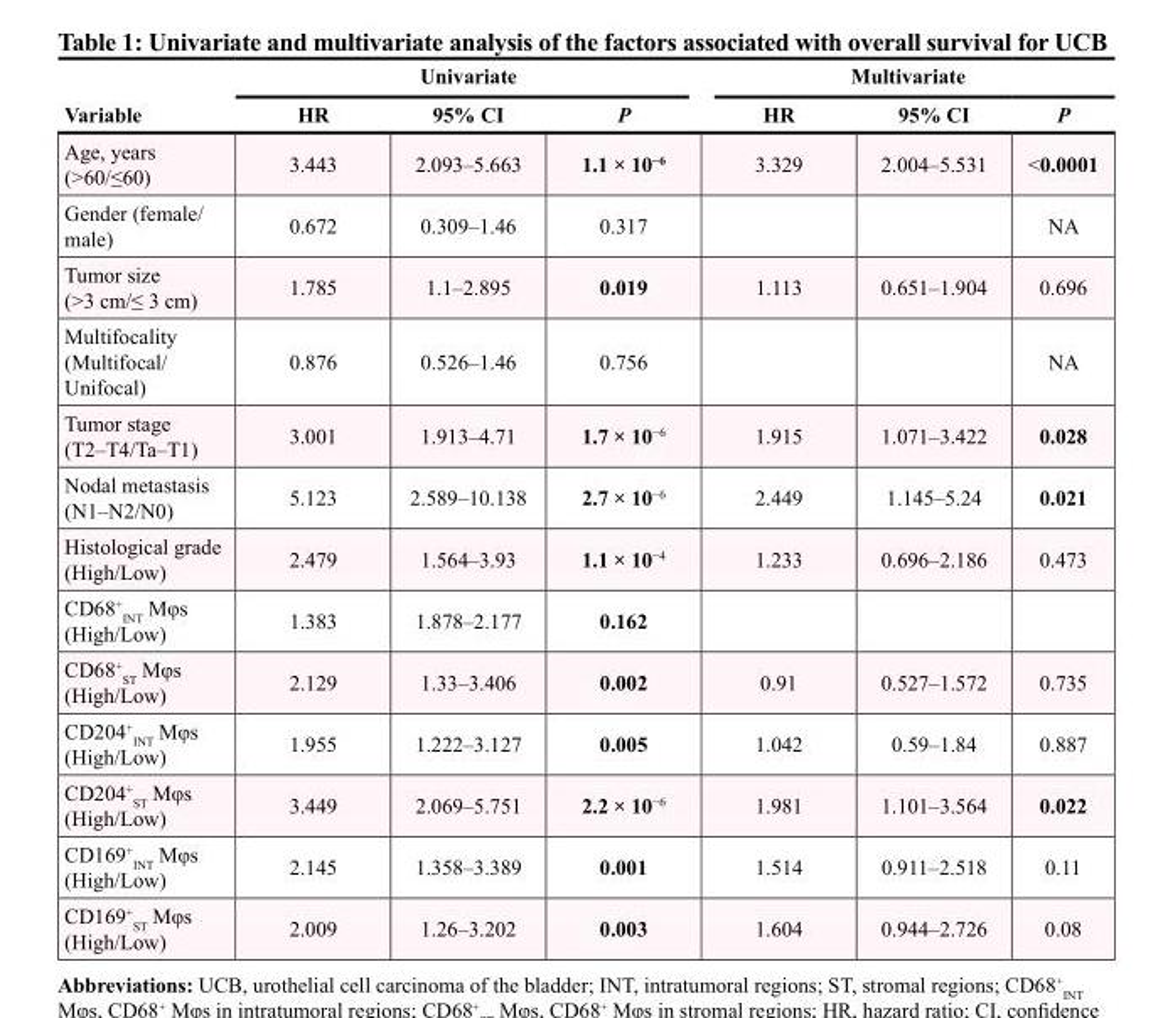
<table><thead><tr><td rowspan="2">Variable</td><td colspan="3">Univariate</td><td colspan="3">Multivariate</td></tr><tr><td>HR</td><td>95% CI</td><td>P</td><td>HR</td><td>95% CI</td><td>P</td></tr></thead><tbody><tr><td>Age, years (&gt;60/≤60)</td><td>3.443</td><td>2.093–5.663</td><td>1.1 × 10<sup>−6</sup></td><td>3.329</td><td>2.004–5.531</td><td>&lt;0.0001</td></tr><tr><td>Gender (female/ male)</td><td>0.672</td><td>0.309–1.46</td><td>0.317</td><td></td><td></td><td>NA</td></tr><tr><td>Tumor size (&gt;3 cm/≤ 3 cm)</td><td>1.785</td><td>1.1–2.895</td><td>0.019</td><td>1.113</td><td>0.651–1.904</td><td>0.696</td></tr><tr><td>Multifocality (Multifocal/ Unifocal)</td><td>0.876</td><td>0.526–1.46</td><td>0.756</td><td></td><td></td><td>NA</td></tr><tr><td>Tumor stage (T2–T4/Ta–T1)</td><td>3.001</td><td>1.913–4.71</td><td>1.7 × 10<sup>−6</sup></td><td>1.915</td><td>1.071–3.422</td><td>0.028</td></tr><tr><td>Nodal metastasis (N1–N2/N0)</td><td>5.123</td><td>2.589–10.138</td><td>2.7 × 10<sup>−6</sup></td><td>2.449</td><td>1.145–5.24</td><td>0.021</td></tr><tr><td>Histological grade (High/Low)</td><td>2.479</td><td>1.564–3.93</td><td>1.1 × 10<sup>−4</sup></td><td>1.233</td><td>0.696–2.186</td><td>0.473</td></tr><tr><td>CD68<sup>+</sup> <sub>INT</sub> Mφs (High/Low)</td><td>1.383</td><td>1.878–2.177</td><td>0.162</td><td></td><td></td><td></td></tr><tr><td>CD68<sup>+</sup> <sub>ST</sub> Mφs (High/Low)</td><td>2.129</td><td>1.33–3.406</td><td>0.002</td><td>0.91</td><td>0.527–1.572</td><td>0.735</td></tr><tr><td>CD204<sup>+</sup> <sub>INT</sub> Mφs (High/Low)</td><td>1.955</td><td>1.222–3.127</td><td>0.005</td><td>1.042</td><td>0.59–1.84</td><td>0.887</td></tr><tr><td>CD204<sup>+</sup> <sub>ST</sub> Mφs (High/Low)</td><td>3.449</td><td>2.069–5.751</td><td>2.2 × 10<sup>−6</sup></td><td>1.981</td><td>1.101–3.564</td><td>0.022</td></tr><tr><td>CD169<sup>+</sup> <sub>INT</sub> Mφs (High/Low)</td><td>2.145</td><td>1.358–3.389</td><td>0.001</td><td>1.514</td><td>0.911–2.518</td><td>0.11</td></tr><tr><td>CD169<sup>+</sup> <sub>ST</sub> Mφs (High/Low)</td><td>2.009</td><td>1.26–3.202</td><td>0.003</td><td>1.604</td><td>0.944–2.726</td><td>0.08</td></tr></tbody></table>